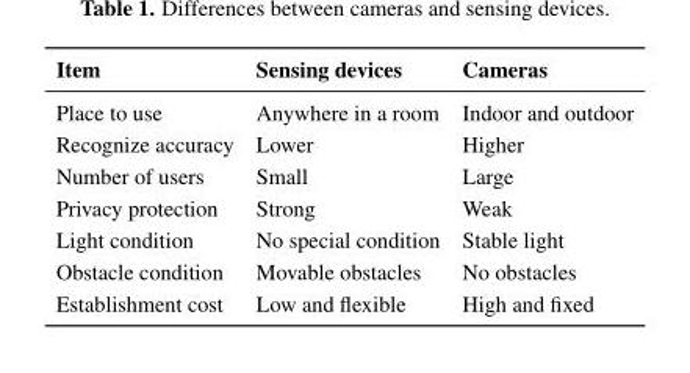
<table><thead><tr><td>Item</td><td>Sensing devices</td><td>Cameras</td></tr></thead><tbody><tr><td>Place to use</td><td>Anywhere in a room</td><td>Indoor and outdoor</td></tr><tr><td>Recognize accuracy</td><td>Lower</td><td>Higher</td></tr><tr><td>Number of users</td><td>Small</td><td>Large</td></tr><tr><td>Privacy protection</td><td>Strong</td><td>Weak</td></tr><tr><td>Light condition</td><td>No special condition</td><td>Stable light</td></tr><tr><td>Obstacle condition</td><td>Movable obstacles</td><td>No obstacles</td></tr><tr><td>Establishment cost</td><td>Low and flexible</td><td>High and fixed</td></tr></tbody></table>